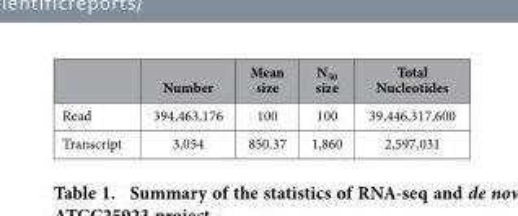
<table><thead><tr><td></td><td>Number</td><td>Mean size</td><td>N<sub>50</sub> size</td><td>Total Nucleotides</td></tr></thead><tbody><tr><td>Read</td><td>394,463,176</td><td>100</td><td>100</td><td>39,446,317,600</td></tr><tr><td>Transcript</td><td>3,054</td><td>850.37</td><td>1,860</td><td>2,597,031</td></tr></tbody></table>